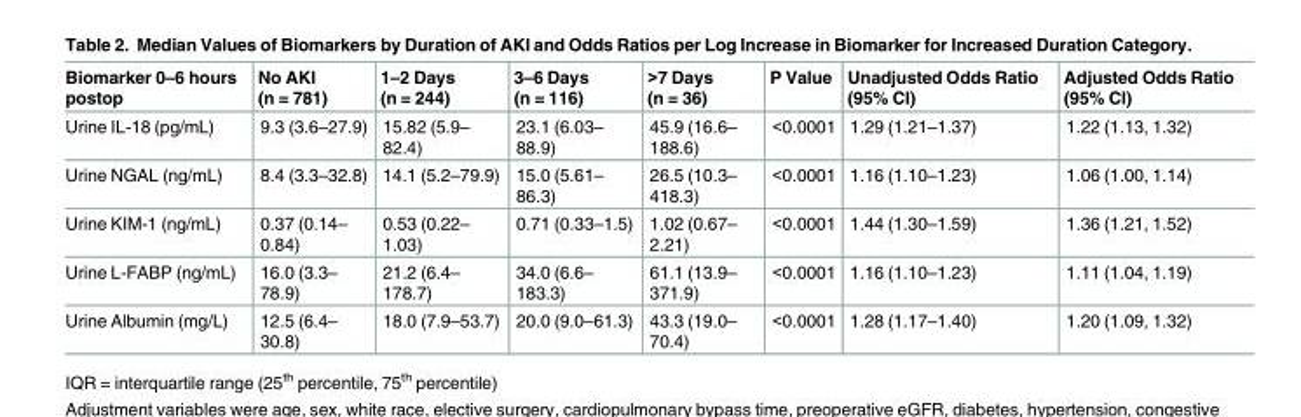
<table><thead><tr><td>Biomarker 0–6 hours postop</td><td>No AKI (n = 781)</td><td>1–2 Days (n = 244)</td><td>3–6 Days (n = 116)</td><td>&gt;7 Days (n = 36)</td><td>P Value</td><td>Unadjusted Odds Ratio (95% CI)</td><td>Adjusted Odds Ratio (95% CI)</td></tr></thead><tbody><tr><td>Urine IL-18 (pg/mL)</td><td>9.3 (3.6–27.9)</td><td>15.82 (5.9– 82.4)</td><td>23.1 (6.03– 88.9)</td><td>45.9 (16.6– 188.6)</td><td>&lt;0.0001</td><td>1.29 (1.21–1.37)</td><td>1.22 (1.13, 1.32)</td></tr><tr><td>Urine NGAL (ng/mL)</td><td>8.4 (3.3–32.8)</td><td>14.1 (5.2–79.9)</td><td>15.0 (5.61– 86.3)</td><td>26.5 (10.3– 418.3)</td><td>&lt;0.0001</td><td>1.16 (1.10–1.23)</td><td>1.06 (1.00, 1.14)</td></tr><tr><td>Urine KIM-1 (ng/mL)</td><td>0.37 (0.14– 0.84)</td><td>0.53 (0.22– 1.03)</td><td>0.71 (0.33–1.5)</td><td>1.02 (0.67– 2.21)</td><td>&lt;0.0001</td><td>1.44 (1.30–1.59)</td><td>1.36 (1.21, 1.52)</td></tr><tr><td>Urine L-FABP (ng/mL)</td><td>16.0 (3.3– 78.9)</td><td>21.2 (6.4– 178.7)</td><td>34.0 (6.6– 183.3)</td><td>61.1 (13.9– 371.9)</td><td>&lt;0.0001</td><td>1.16 (1.10–1.23)</td><td>1.11 (1.04, 1.19)</td></tr><tr><td>Urine Albumin (mg/L)</td><td>12.5 (6.4– 30.8)</td><td>18.0 (7.9–53.7)</td><td>20.0 (9.0–61.3)</td><td>43.3 (19.0– 70.4)</td><td>&lt;0.0001</td><td>1.28 (1.17–1.40)</td><td>1.20 (1.09, 1.32)</td></tr></tbody></table>